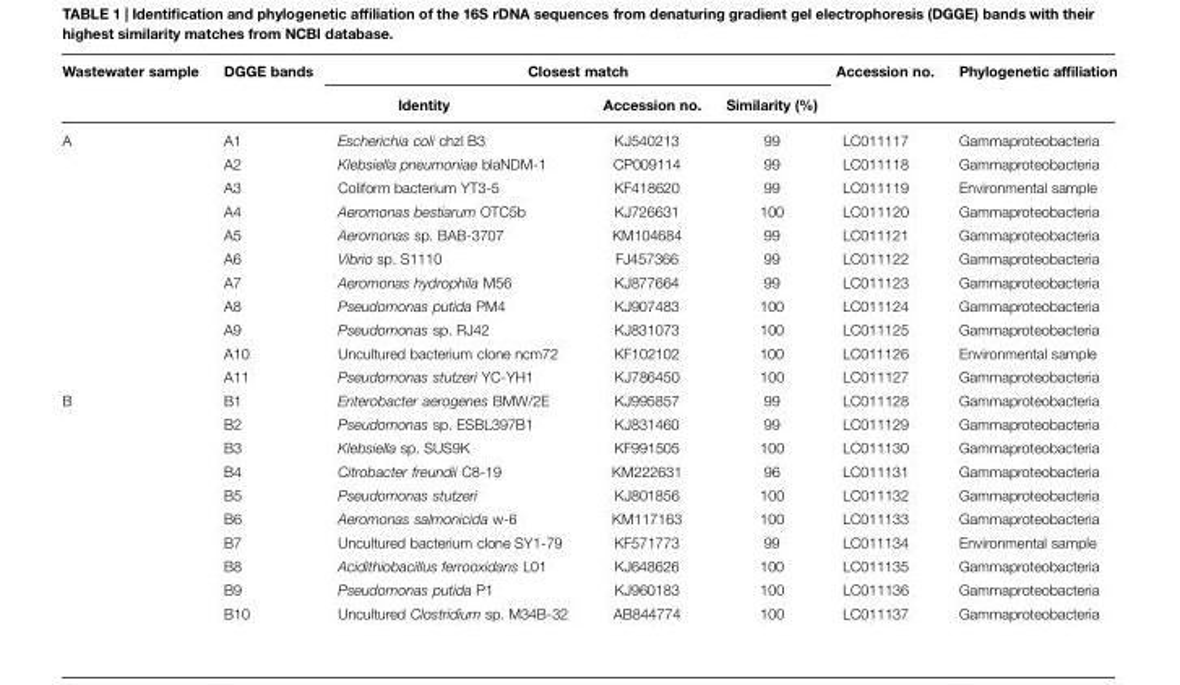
<table><thead><tr><td rowspan="2">Wastewater sample</td><td rowspan="2">DGGE bands</td><td colspan="3">Closest match</td><td rowspan="2">Accession no.</td><td rowspan="2">Phylogenetic affiliation</td></tr><tr><td>Identity</td><td>Accession no.</td><td>Similarity (%)</td></tr></thead><tbody><tr><td rowspan="11">A</td><td>A1</td><td>Escherichia coli chzl B3</td><td>KJ540213</td><td>99</td><td>LC011117</td><td>Gammaproteobacteria</td></tr><tr><td>A2</td><td>Klebsiella pneumoniae blaNDM-1</td><td>CP009114</td><td>99</td><td>LC011118</td><td>Gammaproteobacteria</td></tr><tr><td>A3</td><td>Coliform bacterium YT3-5</td><td>KF418620</td><td>99</td><td>LC011119</td><td>Environmental sample</td></tr><tr><td>A4</td><td>Aeromonas bestiarum OTC5b</td><td>KJ726631</td><td>100</td><td>LC011120</td><td>Gammaproteobacteria</td></tr><tr><td>A5</td><td>Aeromonas sp. BAB-3707</td><td>KM104684</td><td>99</td><td>LC011121</td><td>Gammaproteobacteria</td></tr><tr><td>A6</td><td>Vibrio sp. S1110</td><td>FJ457366</td><td>99</td><td>LC011122</td><td>Gammaproteobacteria</td></tr><tr><td>A7</td><td>Aeromonas hydrophila M56</td><td>KJ877664</td><td>99</td><td>LC011123</td><td>Gammaproteobacteria</td></tr><tr><td>A8</td><td>Pseudomonas putida PM4</td><td>KJ907483</td><td>100</td><td>LC011124</td><td>Gammaproteobacteria</td></tr><tr><td>A9</td><td>Pseudomonas sp. RJ42</td><td>KJ831073</td><td>100</td><td>LC011125</td><td>Gammaproteobacteria</td></tr><tr><td>A10</td><td>Uncultured bacterium clone ncm72</td><td>KF102102</td><td>100</td><td>LC011126</td><td>Environmental sample</td></tr><tr><td>A11</td><td>Pseudomonas stutzeri YC-YH1</td><td>KJ786450</td><td>100</td><td>LC011127</td><td>Gammaproteobacteria</td></tr><tr><td rowspan="10">B</td><td>B1</td><td>Enterobacter aerogenes BMW/2E</td><td>KJ995857</td><td>99</td><td>LC011128</td><td>Gammaproteobacteria</td></tr><tr><td>B2</td><td>Pseudomonas sp. ESBL397B1</td><td>KJ831460</td><td>99</td><td>LC011129</td><td>Gammaproteobacteria</td></tr><tr><td>B3</td><td>Klebsiella sp. SUS9K</td><td>KF991505</td><td>100</td><td>LC011130</td><td>Gammaproteobacteria</td></tr><tr><td>B4</td><td>Citrobacter freundii C8-19</td><td>KM222631</td><td>96</td><td>LC011131</td><td>Gammaproteobacteria</td></tr><tr><td>B5</td><td>Pseudomonas stutzeri</td><td>KJ801856</td><td>100</td><td>LC011132</td><td>Gammaproteobacteria</td></tr><tr><td>B6</td><td>Aeromonas salmonicida w-6</td><td>KM117163</td><td>100</td><td>LC011133</td><td>Gammaproteobacteria</td></tr><tr><td>B7</td><td>Uncultured bacterium clone SY1-79</td><td>KF571773</td><td>99</td><td>LC011134</td><td>Environmental sample</td></tr><tr><td>B8</td><td>Acidithiobacillus ferrooxidans L01</td><td>KJ648626</td><td>100</td><td>LC011135</td><td>Gammaproteobacteria</td></tr><tr><td>B9</td><td>Pseudomonas putida P1</td><td>KJ960183</td><td>100</td><td>LC011136</td><td>Gammaproteobacteria</td></tr><tr><td>B10</td><td>Uncultured Clostridium sp. M34B-32</td><td>AB844774</td><td>100</td><td>LC011137</td><td>Gammaproteobacteria</td></tr></tbody></table>